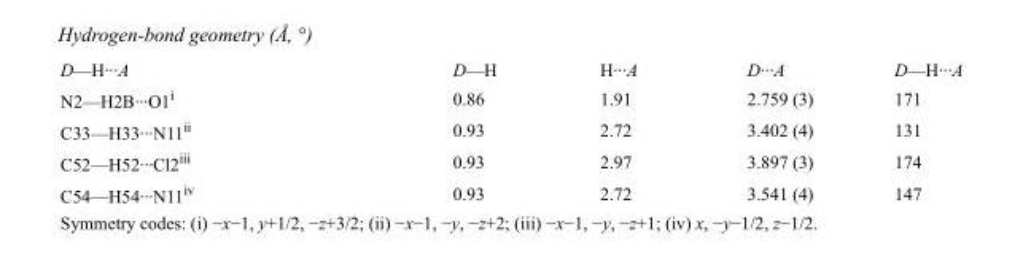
<table><tbody><tr><td>D—H···A</td><td>D—H</td><td>H···A</td><td>D···A</td><td>D—H···A</td></tr><tr><td>N2—H2B···O1<sup>i</sup></td><td>0.86</td><td>1.91</td><td>2.759 (3)</td><td>171</td></tr><tr><td>C33—H33···N11<sup>ii</sup></td><td>0.93</td><td>2.72</td><td>3.402 (4)</td><td>131</td></tr><tr><td>C52—H52···Cl2<sup>iii</sup></td><td>0.93</td><td>2.97</td><td>3.897 (3)</td><td>174</td></tr><tr><td>C54—H54···N11<sup>iv</sup></td><td>0.93</td><td>2.72</td><td>3.541 (4)</td><td>147</td></tr></tbody></table>